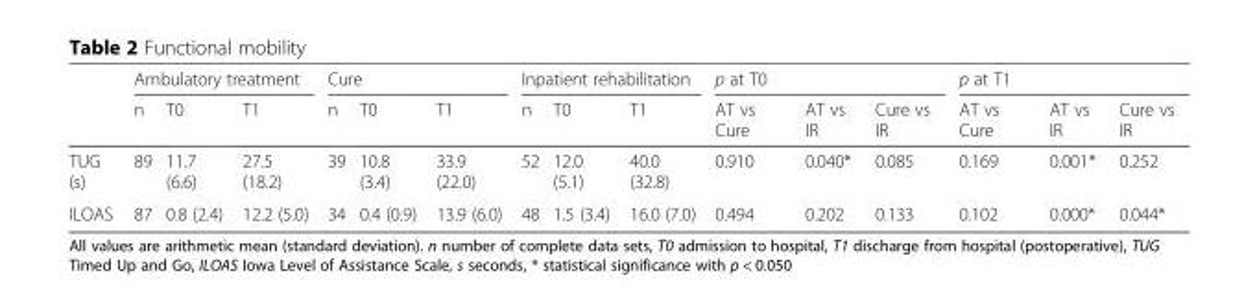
<table><thead><tr><td rowspan="2"></td><td colspan="3">Ambulatory treatment</td><td colspan="3">Cure</td><td colspan="3">Inpatient rehabilitation</td><td colspan="3">p at T0</td><td colspan="3">p at T1</td></tr><tr><td>n</td><td>T0</td><td>T1</td><td>n</td><td>T0</td><td>T1</td><td>n</td><td>T0</td><td>T1</td><td>AT vs Cure</td><td>AT vs IR</td><td>Cure vs IR</td><td>AT vs Cure</td><td>AT vs IR</td><td>Cure vs IR</td></tr></thead><tbody><tr><td>TUG (s)</td><td>89</td><td>11.7 (6.6)</td><td>27.5 (18.2)</td><td>39</td><td>10.8 (3.4)</td><td>33.9 (22.0)</td><td>52</td><td>12.0 (5.1)</td><td>40.0 (32.8)</td><td>0.910</td><td>0.040*</td><td>0.085</td><td>0.169</td><td>0.001*</td><td>0.252</td></tr><tr><td>ILOAS</td><td>87</td><td>0.8 (2.4)</td><td>12.2 (5.0)</td><td>34</td><td>0.4 (0.9)</td><td>13.9 (6.0)</td><td>48</td><td>1.5 (3.4)</td><td>16.0 (7.0)</td><td>0.494</td><td>0.202</td><td>0.133</td><td>0.102</td><td>0.000*</td><td>0.044*</td></tr></tbody></table>